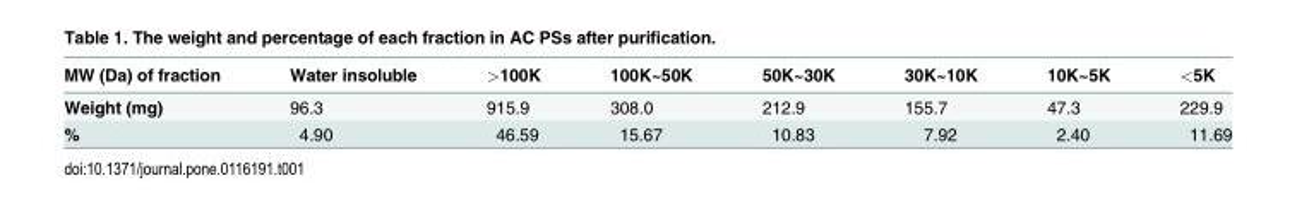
<table><thead><tr><td>MW (Da) of fraction</td><td>Water insoluble</td><td>&gt;100K</td><td>100K~50K</td><td>50K~30K</td><td>30K~10K</td><td>10K~5K</td><td>&lt;5K</td></tr></thead><tbody><tr><td>Weight (mg)</td><td>96.3</td><td>915.9</td><td>308.0</td><td>212.9</td><td>155.7</td><td>47.3</td><td>229.9</td></tr><tr><td>%</td><td>4.90</td><td>46.59</td><td>15.67</td><td>10.83</td><td>7.92</td><td>2.40</td><td>11.69</td></tr></tbody></table>